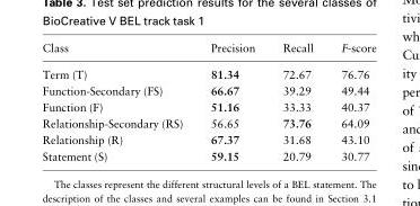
<table><thead><tr><td>Class</td><td>Precision</td><td>Recall</td><td>F-score</td></tr></thead><tbody><tr><td>Term (T)</td><td>81.34</td><td>72.67</td><td>76.76</td></tr><tr><td>Function-Secondary (FS)</td><td>66.67</td><td>39.29</td><td>49.44</td></tr><tr><td>Function (F)</td><td>51.16</td><td>33.33</td><td>40.37</td></tr><tr><td>Relationship-Secondary (RS)</td><td>56.65</td><td>73.76</td><td>64.09</td></tr><tr><td>Relationship (R)</td><td>67.37</td><td>31.68</td><td>43.10</td></tr><tr><td>Statement (S)</td><td>59.15</td><td>20.79</td><td>30.77</td></tr></tbody></table>